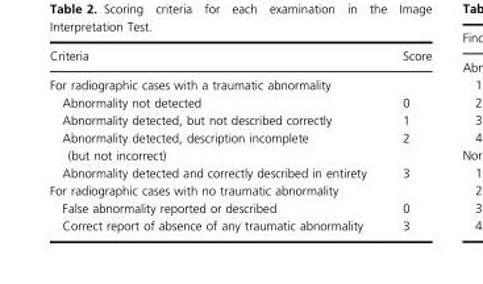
<table><thead><tr><td>Criteria</td><td>Score</td></tr></thead><tbody><tr><td colspan="2">For radiographic cases with a traumatic abnormality</td></tr><tr><td>Abnormality not detected</td><td>0</td></tr><tr><td>Abnormality detected, but not described correctly</td><td>1</td></tr><tr><td>Abnormality detected, description incomplete (but not incorrect)</td><td>2</td></tr><tr><td>Abnormality detected and correctly described in entirety</td><td>3</td></tr><tr><td colspan="2">For radiographic cases with no traumatic abnormality</td></tr><tr><td>False abnormality reported or described</td><td>0</td></tr><tr><td>Correct report of absence of any traumatic abnormality</td><td>3</td></tr></tbody></table>